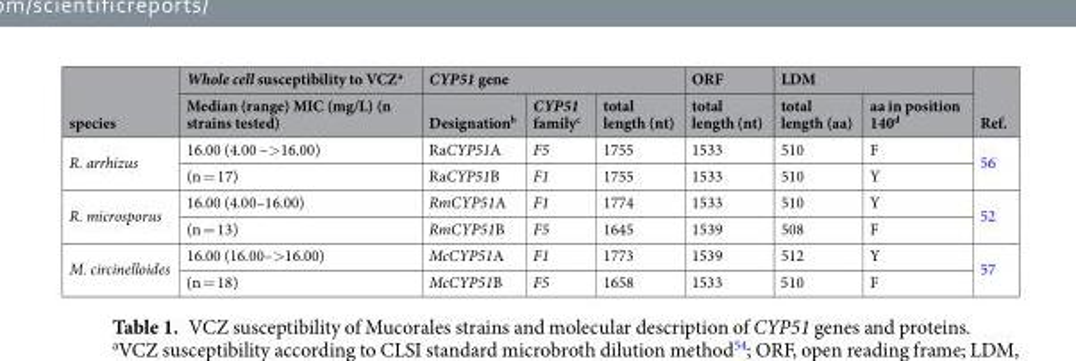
<table><thead><tr><td rowspan="2">species</td><td rowspan="2">Whole cell susceptibility to VCZ<sup>a</sup> Median (range) MIC (mg/L) (n strains tested)</td><td colspan="3">CYP51 gene</td><td rowspan="2">ORF total length (nt)</td><td colspan="2">LDM</td><td rowspan="2">Ref.</td></tr><tr><td>Designation<sup>b</sup></td><td>CYP51 family<sup>c</sup></td><td>total length (nt)</td><td>total length (aa)</td><td>aa in position 140<sup>d</sup></td></tr></thead><tbody><tr><td rowspan="2">R. arrhizus</td><td>16.00 (4.00 –&gt;16.00)</td><td>RaCYP51A</td><td>F5</td><td>1755</td><td>1533</td><td>510</td><td>F</td><td rowspan="2">56</td></tr><tr><td>(n = 17)</td><td>RaCYP51B</td><td>F1</td><td>1755</td><td>1533</td><td>510</td><td>Y</td></tr><tr><td rowspan="2">R. microsporus</td><td>16.00 (4.00–16.00)</td><td>RmCYP51A</td><td>F1</td><td>1774</td><td>1533</td><td>510</td><td>Y</td><td rowspan="2">52</td></tr><tr><td>(n = 13)</td><td>RmCYP51B</td><td>F5</td><td>1645</td><td>1539</td><td>508</td><td>F</td></tr><tr><td rowspan="2">M. circinelloides</td><td>16.00 (16.00–&gt;16.00)</td><td>McCYP51A</td><td>F1</td><td>1773</td><td>1539</td><td>512</td><td>Y</td><td rowspan="2">57</td></tr><tr><td>(n = 18)</td><td>McCYP51B</td><td>F5</td><td>1658</td><td>1533</td><td>510</td><td>F</td></tr></tbody></table>